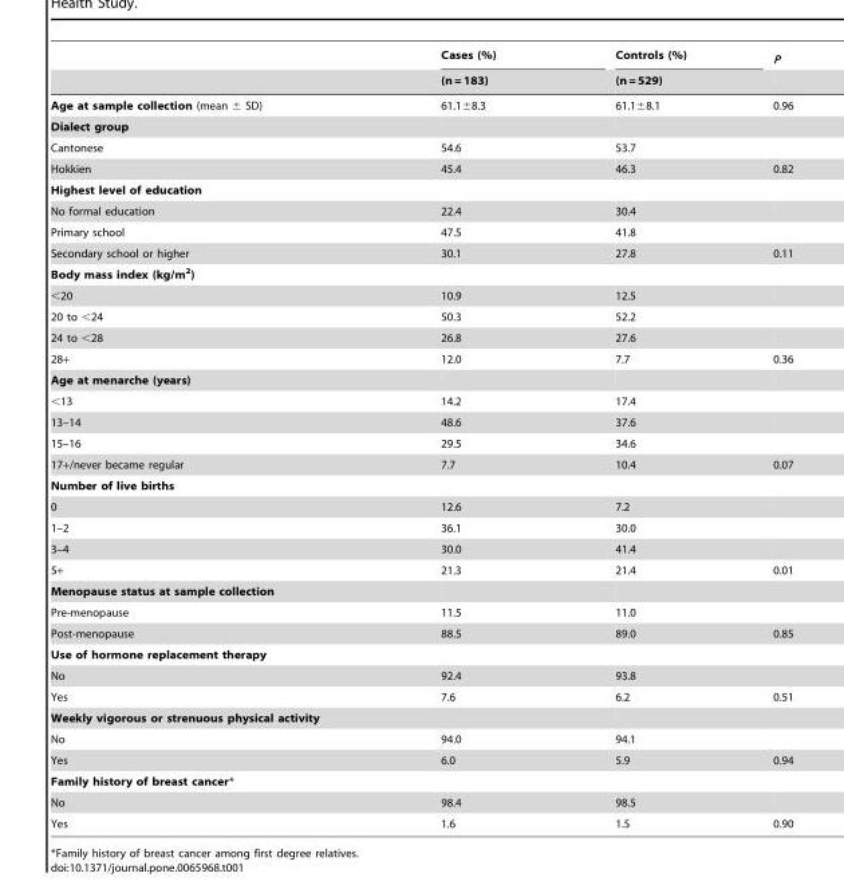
<table><thead><tr><td rowspan="2"></td><td rowspan="2">Cases (%) (n = 183)</td><td rowspan="2">Controls (%) (n = 529)</td><td rowspan="2">P</td></tr><tr></tr></thead><tbody><tr><td>Age at sample collection (mean ± SD)</td><td>61.1±8.3</td><td>61.1±8.1</td><td>0.96</td></tr><tr><td colspan="4">Dialect group</td></tr><tr><td>Cantonese</td><td>54.6</td><td>53.7</td><td></td></tr><tr><td>Hokkien</td><td>45.4</td><td>46.3</td><td>0.82</td></tr><tr><td colspan="4">Highest level of education</td></tr><tr><td>No formal education</td><td>22.4</td><td>30.4</td><td></td></tr><tr><td>Primary school</td><td>47.5</td><td>41.8</td><td></td></tr><tr><td>Secondary school or higher</td><td>30.1</td><td>27.8</td><td>0.11</td></tr><tr><td colspan="4">Body mass index (kg/m<sup>2</sup>)</td></tr><tr><td>&lt;20</td><td>10.9</td><td>12.5</td><td></td></tr><tr><td>20 to &lt;24</td><td>50.3</td><td>52.2</td><td></td></tr><tr><td>24 to &lt;28</td><td>26.8</td><td>27.6</td><td></td></tr><tr><td>28+</td><td>12.0</td><td>7.7</td><td>0.36</td></tr><tr><td colspan="4">Age at menarche (years)</td></tr><tr><td>&lt;13</td><td>14.2</td><td>17.4</td><td></td></tr><tr><td>13–14</td><td>48.6</td><td>37.6</td><td></td></tr><tr><td>15–16</td><td>29.5</td><td>34.6</td><td></td></tr><tr><td>17+/never became regular</td><td>7.7</td><td>10.4</td><td>0.07</td></tr><tr><td colspan="4">Number of live births</td></tr><tr><td>0</td><td>12.6</td><td>7.2</td><td></td></tr><tr><td>1–2</td><td>36.1</td><td>30.0</td><td></td></tr><tr><td>3–4</td><td>30.0</td><td>41.4</td><td></td></tr><tr><td>5+</td><td>21.3</td><td>21.4</td><td>0.01</td></tr><tr><td colspan="4">Menopause status at sample collection</td></tr><tr><td>Pre-menopause</td><td>11.5</td><td>11.0</td><td></td></tr><tr><td>Post-menopause</td><td>88.5</td><td>89.0</td><td>0.85</td></tr><tr><td colspan="4">Use of hormone replacement therapy</td></tr><tr><td>No</td><td>92.4</td><td>93.8</td><td></td></tr><tr><td>Yes</td><td>7.6</td><td>6.2</td><td>0.51</td></tr><tr><td colspan="4">Weekly vigorous or strenuous physical activity</td></tr><tr><td>No</td><td>94.0</td><td>94.1</td><td></td></tr><tr><td>Yes</td><td>6.0</td><td>5.9</td><td>0.94</td></tr><tr><td colspan="4">Family history of breast cancer*</td></tr><tr><td>No</td><td>98.4</td><td>98.5</td><td></td></tr><tr><td>Yes</td><td>1.6</td><td>1.5</td><td>0.90</td></tr></tbody></table>